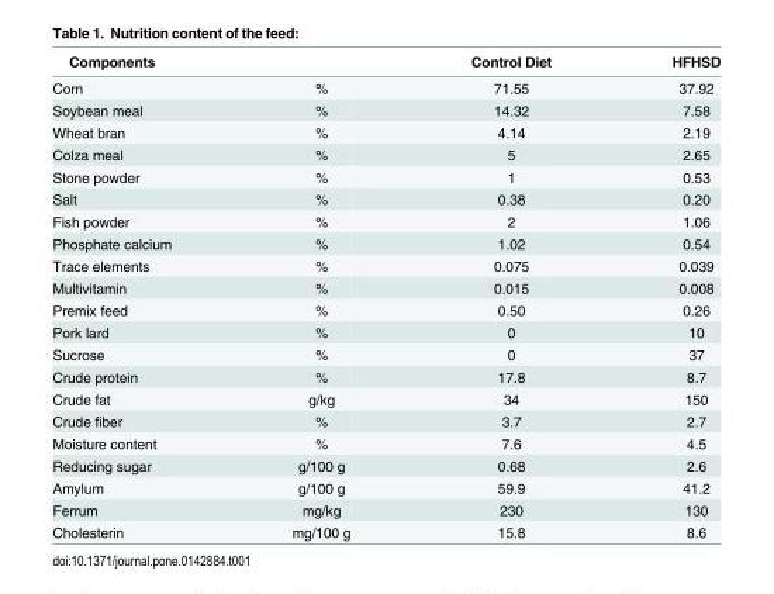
<table><thead><tr><td>Components</td><td></td><td>Control Diet</td><td>HFHSD</td></tr></thead><tbody><tr><td>Corn</td><td>%</td><td>71.55</td><td>37.92</td></tr><tr><td>Soybean meal</td><td>%</td><td>14.32</td><td>7.58</td></tr><tr><td>Wheat bran</td><td>%</td><td>4.14</td><td>2.19</td></tr><tr><td>Colza meal</td><td>%</td><td>5</td><td>2.65</td></tr><tr><td>Stone powder</td><td>%</td><td>1</td><td>0.53</td></tr><tr><td>Salt</td><td>%</td><td>0.38</td><td>0.20</td></tr><tr><td>Fish powder</td><td>%</td><td>2</td><td>1.06</td></tr><tr><td>Phosphate calcium</td><td>%</td><td>1.02</td><td>0.54</td></tr><tr><td>Trace elements</td><td>%</td><td>0.075</td><td>0.039</td></tr><tr><td>Multivitamin</td><td>%</td><td>0.015</td><td>0.008</td></tr><tr><td>Premix feed</td><td>%</td><td>0.50</td><td>0.26</td></tr><tr><td>Pork lard</td><td>%</td><td>0</td><td>10</td></tr><tr><td>Sucrose</td><td>%</td><td>0</td><td>37</td></tr><tr><td>Crude protein</td><td>%</td><td>17.8</td><td>8.7</td></tr><tr><td>Crude fat</td><td>g/kg</td><td>34</td><td>150</td></tr><tr><td>Crude fiber</td><td>%</td><td>3.7</td><td>2.7</td></tr><tr><td>Moisture content</td><td>%</td><td>7.6</td><td>4.5</td></tr><tr><td>Reducing sugar</td><td>g/100 g</td><td>0.68</td><td>2.6</td></tr><tr><td>Amylum</td><td>g/100 g</td><td>59.9</td><td>41.2</td></tr><tr><td>Ferrum</td><td>mg/kg</td><td>230</td><td>130</td></tr><tr><td>Cholesterin</td><td>mg/100 g</td><td>15.8</td><td>8.6</td></tr></tbody></table>